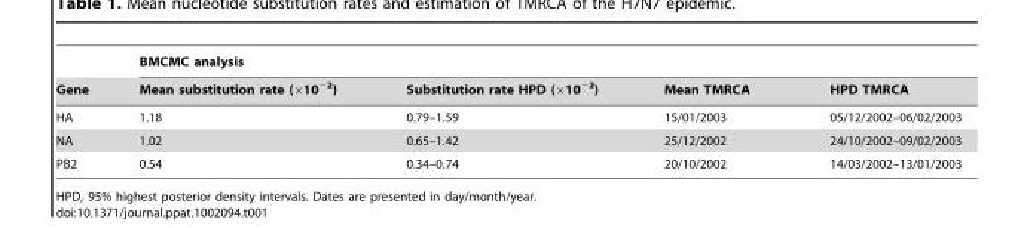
<table><thead><tr><td rowspan="2">Gene</td><td colspan="4">BMCMC analysis</td></tr><tr><td>Mean substitution rate (×10<sup>−2</sup>)</td><td>Substitution rate HPD (×10<sup>−2</sup>)</td><td>Mean TMRCA</td><td>HPD TMRCA</td></tr></thead><tbody><tr><td>HA</td><td>1.18</td><td>0.79–1.59</td><td>15/01/2003</td><td>05/12/2002–06/02/2003</td></tr><tr><td>NA</td><td>1.02</td><td>0.65–1.42</td><td>25/12/2002</td><td>24/10/2002–09/02/2003</td></tr><tr><td>PB2</td><td>0.54</td><td>0.34–0.74</td><td>20/10/2002</td><td>14/03/2002–13/01/2003</td></tr></tbody></table>